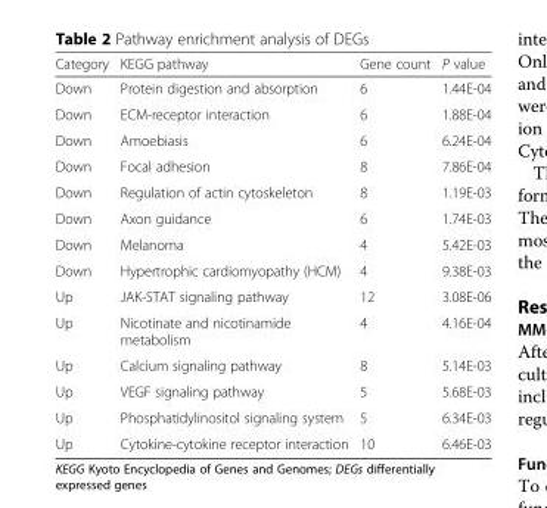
<table><thead><tr><td>Category</td><td>KEGG pathway</td><td>Gene count</td><td>P value</td></tr></thead><tbody><tr><td>Down</td><td>Protein digestion and absorption</td><td>6</td><td>1.44E-04</td></tr><tr><td>Down</td><td>ECM-receptor interaction</td><td>6</td><td>1.88E-04</td></tr><tr><td>Down</td><td>Amoebiasis</td><td>6</td><td>6.24E-04</td></tr><tr><td>Down</td><td>Focal adhesion</td><td>8</td><td>7.86E-04</td></tr><tr><td>Down</td><td>Regulation of actin cytoskeleton</td><td>8</td><td>1.19E-03</td></tr><tr><td>Down</td><td>Axon guidance</td><td>6</td><td>1.74E-03</td></tr><tr><td>Down</td><td>Melanoma</td><td>4</td><td>5.42E-03</td></tr><tr><td>Down</td><td>Hypertrophic cardiomyopathy (HCM)</td><td>4</td><td>9.38E-03</td></tr><tr><td>Up</td><td>JAK-STAT signaling pathway</td><td>12</td><td>3.08E-06</td></tr><tr><td>Up</td><td>Nicotinate and nicotinamide metabolism</td><td>4</td><td>4.16E-04</td></tr><tr><td>Up</td><td>Calcium signaling pathway</td><td>8</td><td>5.14E-03</td></tr><tr><td>Up</td><td>VEGF signaling pathway</td><td>5</td><td>5.68E-03</td></tr><tr><td>Up</td><td>Phosphatidylinositol signaling system</td><td>5</td><td>6.34E-03</td></tr><tr><td>Up</td><td>Cytokine-cytokine receptor interaction</td><td>10</td><td>6.46E-03</td></tr></tbody></table>